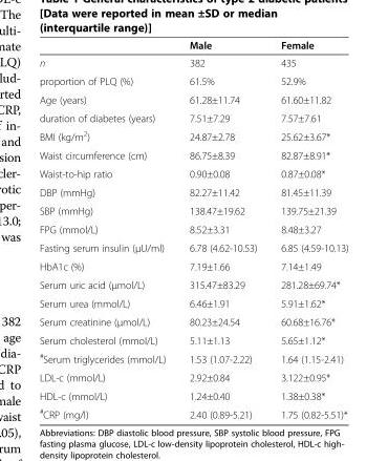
<table><thead><tr><td></td><td>Male</td><td>Female</td></tr></thead><tbody><tr><td>n</td><td>382</td><td>435</td></tr><tr><td>proportion of PLQ (%)</td><td>61.5%</td><td>52.9%</td></tr><tr><td>Age (years)</td><td>61.28±11.74</td><td>61.60±11.82</td></tr><tr><td>duration of diabetes (years)</td><td>7.51±7.29</td><td>7.57±7.61</td></tr><tr><td>BMI (kg/m<sup>2</sup>)</td><td>24.87±2.78</td><td>25.62±3.67*</td></tr><tr><td>Waist circumference (cm)</td><td>86.75±8.39</td><td>82.87±8.91*</td></tr><tr><td>Waist-to-hip ratio</td><td>0.90±0.08</td><td>0.87±0.08*</td></tr><tr><td>DBP (mmHg)</td><td>82.27±11.42</td><td>81.45±11.39</td></tr><tr><td>SBP (mmHg)</td><td>138.47±19.62</td><td>139.75±21.39</td></tr><tr><td>FPG (mmol/L)</td><td>8.52±3.31</td><td>8.48±3.27</td></tr><tr><td>Fasting serum insulin (μU/ml)</td><td>6.78 (4.62-10.53)</td><td>6.85 (4.59-10.13)</td></tr><tr><td>HbA1c (%)</td><td>7.19±1.66</td><td>7.14±1.49</td></tr><tr><td>Serum uric acid (μmol/L)</td><td>315.47±83.29</td><td>281.28±69.74*</td></tr><tr><td>Serum urea (mmol/L)</td><td>6.46±1.91</td><td>5.91±1.62*</td></tr><tr><td>Serum creatinine (μmol/L)</td><td>80.23±24.54</td><td>60.68±16.76*</td></tr><tr><td>Serum cholesterol (mmol/L)</td><td>5.11±1.13</td><td>5.65±1.12*</td></tr><tr><td><sup>#</sup>Serum triglycerides (mmol/L)</td><td>1.53 (1.07-2.22)</td><td>1.64 (1.15-2.41)</td></tr><tr><td>LDL-c (mmol/L)</td><td>2.92±0.84</td><td>3.122±0.95*</td></tr><tr><td>HDL-c (mmol/L)</td><td>1.24±0.40</td><td>1.38±0.38*</td></tr><tr><td><sup>#</sup>CRP (mg/l)</td><td>2.40 (0.89-5.21)</td><td>1.75 (0.82-5.51)*</td></tr></tbody></table>